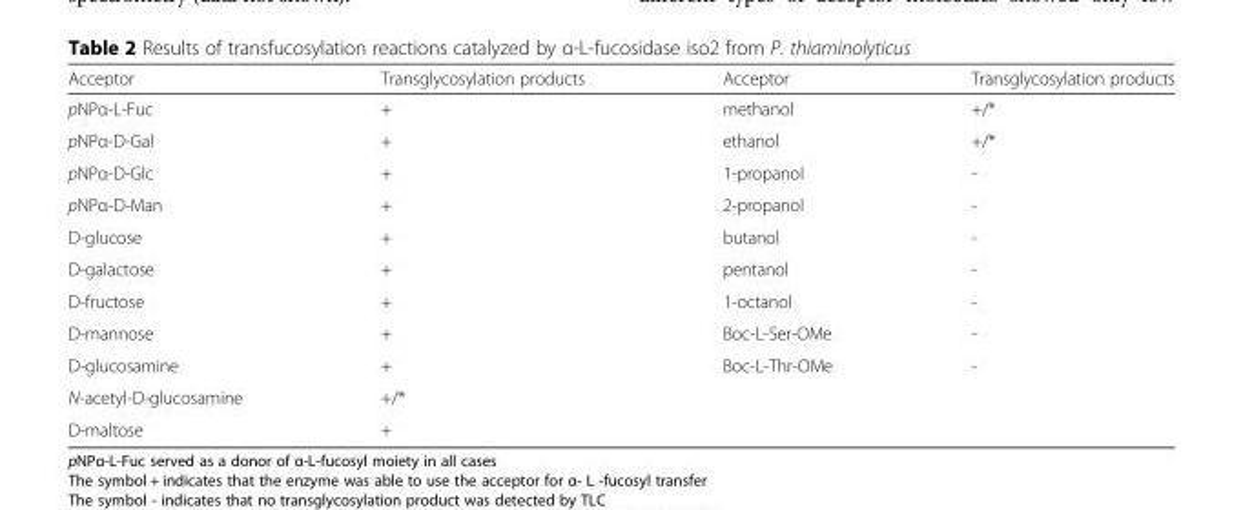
<table><thead><tr><td>Acceptor</td><td>Transglycosylation products</td><td>Acceptor</td><td>Transglycosylation products</td></tr></thead><tbody><tr><td>pNPα-L-Fuc</td><td>+</td><td>methanol</td><td>+/*</td></tr><tr><td>pNPα-D-Gal</td><td>+</td><td>ethanol</td><td>+/*</td></tr><tr><td>pNPα-D-Glc</td><td>+</td><td>1-propanol</td><td>-</td></tr><tr><td>pNPα-D-Man</td><td>+</td><td>2-propanol</td><td>-</td></tr><tr><td>D-glucose</td><td>+</td><td>butanol</td><td>-</td></tr><tr><td>D-galactose</td><td>+</td><td>pentanol</td><td>-</td></tr><tr><td>D-fructose</td><td>+</td><td>1-octanol</td><td>-</td></tr><tr><td>D-mannose</td><td>+</td><td>Boc-L-Ser-OMe</td><td>-</td></tr><tr><td>D-glucosamine</td><td>+</td><td>Boc-L-Thr-OMe</td><td>-</td></tr><tr><td>N-acetyl-D-glucosamine</td><td>+/*</td><td></td><td></td></tr><tr><td>D-maltose</td><td>+</td><td></td><td></td></tr></tbody></table>